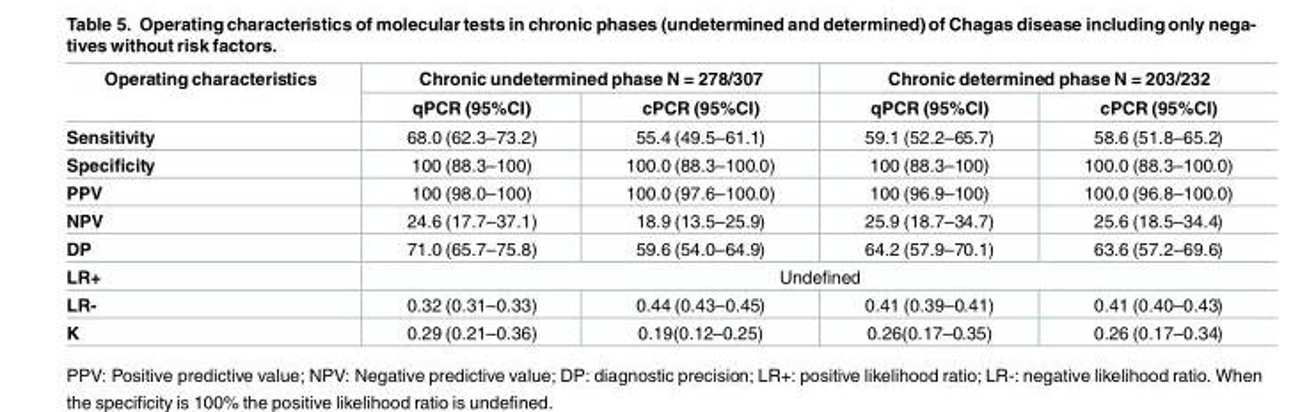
<table><thead><tr><td rowspan="2">Operating characteristics</td><td colspan="2">Chronic undetermined phase N = 278/307</td><td colspan="2">Chronic determined phase N = 203/232</td></tr><tr><td>qPCR (95%CI)</td><td>cPCR (95%CI)</td><td>qPCR (95%CI)</td><td>cPCR (95%CI)</td></tr></thead><tbody><tr><td>Sensitivity</td><td>68.0 (62.3–73.2)</td><td>55.4 (49.5–61.1)</td><td>59.1 (52.2–65.7)</td><td>58.6 (51.8–65.2)</td></tr><tr><td>Specificity</td><td>100 (88.3–100)</td><td>100.0 (88.3–100.0)</td><td>100 (88.3–100)</td><td>100.0 (88.3–100.0)</td></tr><tr><td>PPV</td><td>100 (98.0–100)</td><td>100.0 (97.6–100.0)</td><td>100 (96.9–100)</td><td>100.0 (96.8–100.0)</td></tr><tr><td>NPV</td><td>24.6 (17.7–37.1)</td><td>18.9 (13.5–25.9)</td><td>25.9 (18.7–34.7)</td><td>25.6 (18.5–34.4)</td></tr><tr><td>DP</td><td>71.0 (65.7–75.8)</td><td>59.6 (54.0–64.9)</td><td>64.2 (57.9–70.1)</td><td>63.6 (57.2–69.6)</td></tr><tr><td>LR+</td><td colspan="4">Undefined</td></tr><tr><td>LR-</td><td>0.32 (0.31–0.33)</td><td>0.44 (0.43–0.45)</td><td>0.41 (0.39–0.41)</td><td>0.41 (0.40–0.43)</td></tr><tr><td>K</td><td>0.29 (0.21–0.36)</td><td>0.19(0.12–0.25)</td><td>0.26(0.17–0.35)</td><td>0.26 (0.17–0.34)</td></tr></tbody></table>